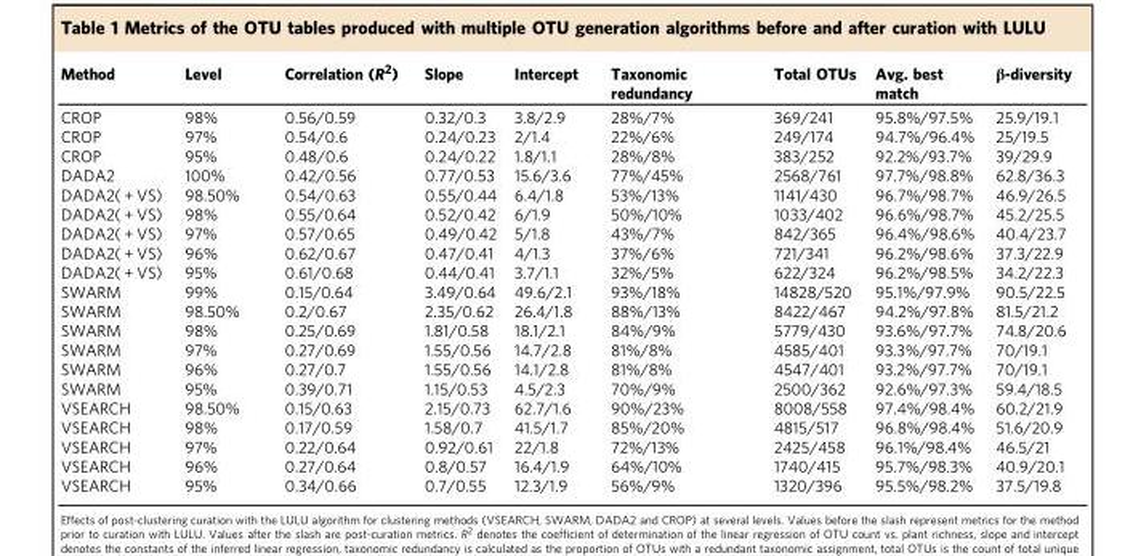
<table><thead><tr><td>Method</td><td>Level</td><td>Correlation (R<sup>2</sup>)</td><td>Slope</td><td>Intercept</td><td>Taxonomic redundancy</td><td>Total OTUs</td><td>Avg. best match</td><td>β-diversity</td></tr></thead><tbody><tr><td>CROP</td><td>98%</td><td>0.56/0.59</td><td>0.32/0.3</td><td>3.8/2.9</td><td>28%/7%</td><td>369/241</td><td>95.8%/97.5%</td><td>25.9/19.1</td></tr><tr><td>CROP</td><td>97%</td><td>0.54/0.6</td><td>0.24/0.23</td><td>2/1.4</td><td>22%/6%</td><td>249/174</td><td>94.7%/96.4%</td><td>25/19.5</td></tr><tr><td>CROP</td><td>95%</td><td>0.48/0.6</td><td>0.24/0.22</td><td>1.8/1.1</td><td>28%/8%</td><td>383/252</td><td>92.2%/93.7%</td><td>39/29.9</td></tr><tr><td>DADA2</td><td>100%</td><td>0.42/0.56</td><td>0.77/0.53</td><td>15.6/3.6</td><td>77%/45%</td><td>2568/761</td><td>97.7%/98.8%</td><td>62.8/36.3</td></tr><tr><td>DADA2( + VS)</td><td>98.50%</td><td>0.54/0.63</td><td>0.55/0.44</td><td>6.4/1.8</td><td>53%/13%</td><td>1141/430</td><td>96.7%/98.7%</td><td>46.9/26.5</td></tr><tr><td>DADA2( + VS)</td><td>98%</td><td>0.55/0.64</td><td>0.52/0.42</td><td>6/1.9</td><td>50%/10%</td><td>1033/402</td><td>96.6%/98.7%</td><td>45.2/25.5</td></tr><tr><td>DADA2( + VS)</td><td>97%</td><td>0.57/0.65</td><td>0.49/0.42</td><td>5/1.8</td><td>43%/7%</td><td>842/365</td><td>96.4%/98.6%</td><td>40.4/23.7</td></tr><tr><td>DADA2( + VS)</td><td>96%</td><td>0.62/0.67</td><td>0.47/0.41</td><td>4/1.3</td><td>37%/6%</td><td>721/341</td><td>96.2%/98.6%</td><td>37.3/22.9</td></tr><tr><td>DADA2( + VS)</td><td>95%</td><td>0.61/0.68</td><td>0.44/0.41</td><td>3.7/1.1</td><td>32%/5%</td><td>622/324</td><td>96.2%/98.5%</td><td>34.2/22.3</td></tr><tr><td>SWARM</td><td>99%</td><td>0.15/0.64</td><td>3.49/0.64</td><td>49.6/2.1</td><td>93%/18%</td><td>14828/520</td><td>95.1%/97.9%</td><td>90.5/22.5</td></tr><tr><td>SWARM</td><td>98.50%</td><td>0.2/0.67</td><td>2.35/0.62</td><td>26.4/1.8</td><td>88%/13%</td><td>8422/467</td><td>94.2%/97.8%</td><td>81.5/21.2</td></tr><tr><td>SWARM</td><td>98%</td><td>0.25/0.69</td><td>1.81/0.58</td><td>18.1/2.1</td><td>84%/9%</td><td>5779/430</td><td>93.6%/97.7%</td><td>74.8/20.6</td></tr><tr><td>SWARM</td><td>97%</td><td>0.27/0.69</td><td>1.55/0.56</td><td>14.7/2.8</td><td>81%/8%</td><td>4585/401</td><td>93.3%/97.7%</td><td>70/19.1</td></tr><tr><td>SWARM</td><td>96%</td><td>0.27/0.7</td><td>1.55/0.56</td><td>14.1/2.8</td><td>81%/8%</td><td>4547/401</td><td>93.2%/97.7%</td><td>70/19.1</td></tr><tr><td>SWARM</td><td>95%</td><td>0.39/0.71</td><td>1.15/0.53</td><td>4.5/2.3</td><td>70%/9%</td><td>2500/362</td><td>92.6%/97.3%</td><td>59.4/18.5</td></tr><tr><td>VSEARCH</td><td>98.50%</td><td>0.15/0.63</td><td>2.15/0.73</td><td>62.7/1.6</td><td>90%/23%</td><td>8008/558</td><td>97.4%/98.4%</td><td>60.2/21.9</td></tr><tr><td>VSEARCH</td><td>98%</td><td>0.17/0.59</td><td>1.58/0.7</td><td>41.5/1.7</td><td>85%/20%</td><td>4815/517</td><td>96.8%/98.4%</td><td>51.6/20.9</td></tr><tr><td>VSEARCH</td><td>97%</td><td>0.22/0.64</td><td>0.92/0.61</td><td>22/1.8</td><td>72%/13%</td><td>2425/458</td><td>96.1%/98.4%</td><td>46.5/21</td></tr><tr><td>VSEARCH</td><td>96%</td><td>0.27/0.64</td><td>0.8/0.57</td><td>16.4/1.9</td><td>64%/10%</td><td>1740/415</td><td>95.7%/98.3%</td><td>40.9/20.1</td></tr><tr><td>VSEARCH</td><td>95%</td><td>0.34/0.66</td><td>0.7/0.55</td><td>12.3/1.9</td><td>56%/9%</td><td>1320/396</td><td>95.5%/98.2%</td><td>37.5/19.8</td></tr></tbody></table>